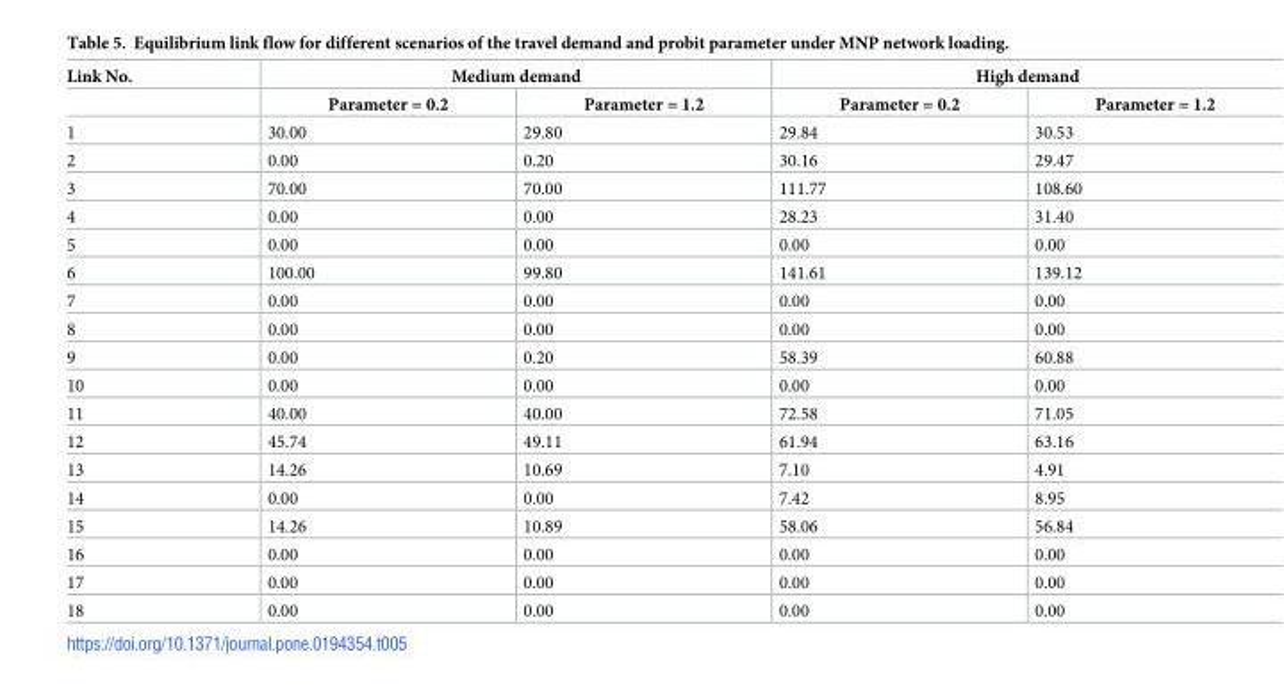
<table><thead><tr><td rowspan="2">Link No.</td><td colspan="2">Medium demand</td><td colspan="2">High demand</td></tr><tr><td>Parameter = 0.2</td><td>Parameter = 1.2</td><td>Parameter = 0.2</td><td>Parameter = 1.2</td></tr></thead><tbody><tr><td>1</td><td>30.00</td><td>29.80</td><td>29.84</td><td>30.53</td></tr><tr><td>2</td><td>0.00</td><td>0.20</td><td>30.16</td><td>29.47</td></tr><tr><td>3</td><td>70.00</td><td>70.00</td><td>111.77</td><td>108.60</td></tr><tr><td>4</td><td>0.00</td><td>0.00</td><td>28.23</td><td>31.40</td></tr><tr><td>5</td><td>0.00</td><td>0.00</td><td>0.00</td><td>0.00</td></tr><tr><td>6</td><td>100.00</td><td>99.80</td><td>141.61</td><td>139.12</td></tr><tr><td>7</td><td>0.00</td><td>0.00</td><td>0.00</td><td>0.00</td></tr><tr><td>8</td><td>0.00</td><td>0.00</td><td>0.00</td><td>0.00</td></tr><tr><td>9</td><td>0.00</td><td>0.20</td><td>58.39</td><td>60.88</td></tr><tr><td>10</td><td>0.00</td><td>0.00</td><td>0.00</td><td>0.00</td></tr><tr><td>11</td><td>40.00</td><td>40.00</td><td>72.58</td><td>71.05</td></tr><tr><td>12</td><td>45.74</td><td>49.11</td><td>61.94</td><td>63.16</td></tr><tr><td>13</td><td>14.26</td><td>10.69</td><td>7.10</td><td>4.91</td></tr><tr><td>14</td><td>0.00</td><td>0.00</td><td>7.42</td><td>8.95</td></tr><tr><td>15</td><td>14.26</td><td>10.89</td><td>58.06</td><td>56.84</td></tr><tr><td>16</td><td>0.00</td><td>0.00</td><td>0.00</td><td>0.00</td></tr><tr><td>17</td><td>0.00</td><td>0.00</td><td>0.00</td><td>0.00</td></tr><tr><td>18</td><td>0.00</td><td>0.00</td><td>0.00</td><td>0.00</td></tr></tbody></table>